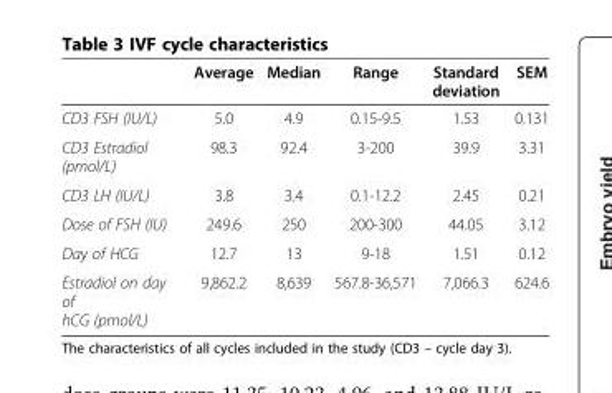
<table><thead><tr><td></td><td>Average</td><td>Median</td><td>Range</td><td>Standard deviation</td><td>SEM</td></tr></thead><tbody><tr><td>CD3 FSH (IU/L)</td><td>5.0</td><td>4.9</td><td>0.15-9.5</td><td>1.53</td><td>0.131</td></tr><tr><td>CD3 Estradiol (pmol/L)</td><td>98.3</td><td>92.4</td><td>3-200</td><td>39.9</td><td>3.31</td></tr><tr><td>CD3 LH (IU/L)</td><td>3.8</td><td>3.4</td><td>0.1-12.2</td><td>2.45</td><td>0.21</td></tr><tr><td>Dose of FSH (IU)</td><td>249.6</td><td>250</td><td>200-300</td><td>44.05</td><td>3.12</td></tr><tr><td>Day of HCG</td><td>12.7</td><td>13</td><td>9-18</td><td>1.51</td><td>0.12</td></tr><tr><td>Estradiol on day of hCG (pmol/L)</td><td>9,862.2</td><td>8,639</td><td>567.8-36,571</td><td>7,066.3</td><td>624.6</td></tr></tbody></table>